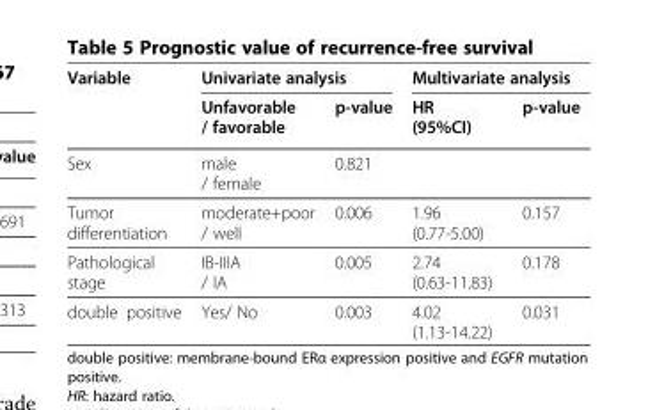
<table><thead><tr><td rowspan="2">Variable</td><td colspan="2">Univariate analysis</td><td colspan="2">Multivariate analysis</td></tr><tr><td>Unfavorable / favorable</td><td>p-value</td><td>HR (95%CI)</td><td>p-value</td></tr></thead><tbody><tr><td>Sex</td><td>male / female</td><td>0.821</td><td></td><td></td></tr><tr><td>Tumor differentiation</td><td>moderate+poor / well</td><td>0.006</td><td>1.96 (0.77-5.00)</td><td>0.157</td></tr><tr><td>Pathological stage</td><td>IB-IIIA / IA</td><td>0.005</td><td>2.74 (0.63-11.83)</td><td>0.178</td></tr><tr><td>double positive</td><td>Yes/ No</td><td>0.003</td><td>4.02 (1.13-14.22)</td><td>0.031</td></tr></tbody></table>